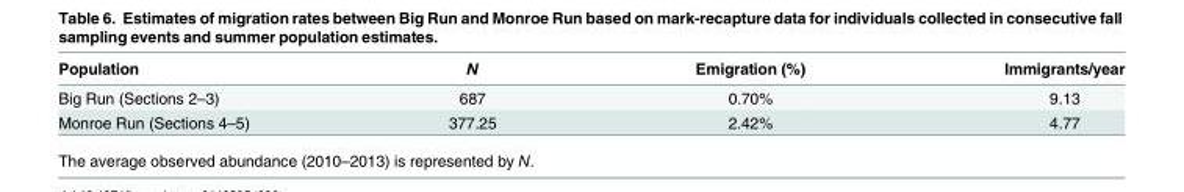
<table><thead><tr><td>Population</td><td>N</td><td>Emigration (%)</td><td>Immigrants/year</td></tr></thead><tbody><tr><td>Big Run (Sections 2–3)</td><td>687</td><td>0.70%</td><td>9.13</td></tr><tr><td>Monroe Run (Sections 4–5)</td><td>377.25</td><td>2.42%</td><td>4.77</td></tr></tbody></table>